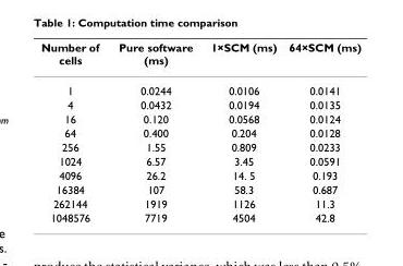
<table><thead><tr><td>Number of cells</td><td>Pure software (ms)</td><td>1×SCM (ms)</td><td>64×SCM (ms)</td></tr></thead><tbody><tr><td>1</td><td>0.0244</td><td>0.0106</td><td>0.0141</td></tr><tr><td>4</td><td>0.0432</td><td>0.0194</td><td>0.0135</td></tr><tr><td>16</td><td>0.120</td><td>0.0568</td><td>0.0124</td></tr><tr><td>64</td><td>0.400</td><td>0.204</td><td>0.0128</td></tr><tr><td>256</td><td>1.55</td><td>0.809</td><td>0.0233</td></tr><tr><td>1024</td><td>6.57</td><td>3.45</td><td>0.0591</td></tr><tr><td>4096</td><td>26.2</td><td>14. 5</td><td>0.193</td></tr><tr><td>16384</td><td>107</td><td>58.3</td><td>0.687</td></tr><tr><td>262144</td><td>1919</td><td>1126</td><td>11.3</td></tr><tr><td>1048576</td><td>7719</td><td>4504</td><td>42.8</td></tr></tbody></table>